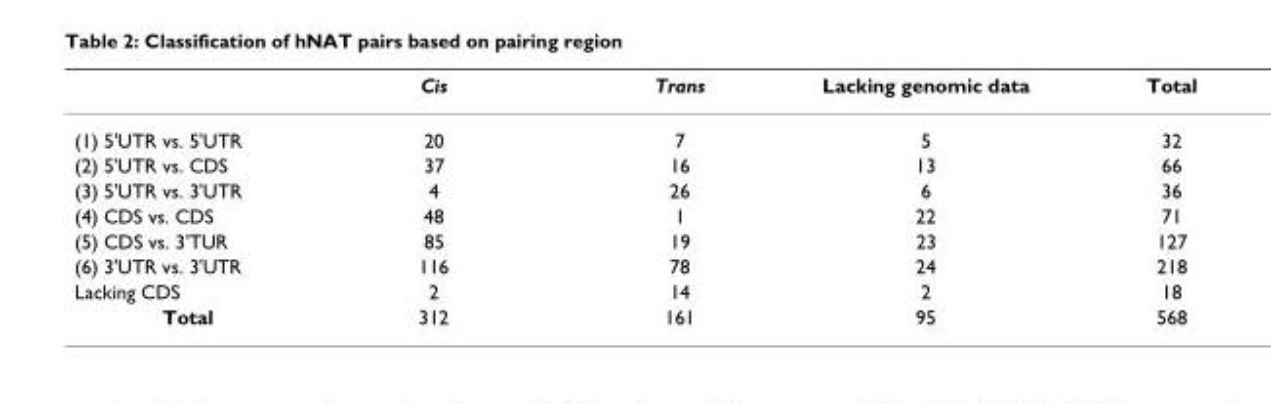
<table><thead><tr><td></td><td>Cis</td><td>Trans</td><td>Lacking genomic data</td><td>Total</td></tr></thead><tbody><tr><td>(1) 5&#x27;UTR vs. 5&#x27;UTR</td><td>20</td><td>7</td><td>5</td><td>32</td></tr><tr><td>(2) 5&#x27;UTR vs. CDS</td><td>37</td><td>16</td><td>13</td><td>66</td></tr><tr><td>(3) 5&#x27;UTR vs. 3&#x27;UTR</td><td>4</td><td>26</td><td>6</td><td>36</td></tr><tr><td>(4) CDS vs. CDS</td><td>48</td><td>1</td><td>22</td><td>71</td></tr><tr><td>(5) CDS vs. 3&#x27;TUR</td><td>85</td><td>19</td><td>23</td><td>127</td></tr><tr><td>(6) 3&#x27;UTR vs. 3&#x27;UTR</td><td>116</td><td>78</td><td>24</td><td>218</td></tr><tr><td>Lacking CDS</td><td>2</td><td>14</td><td>2</td><td>18</td></tr><tr><td>Total</td><td>312</td><td>161</td><td>95</td><td>568</td></tr></tbody></table>